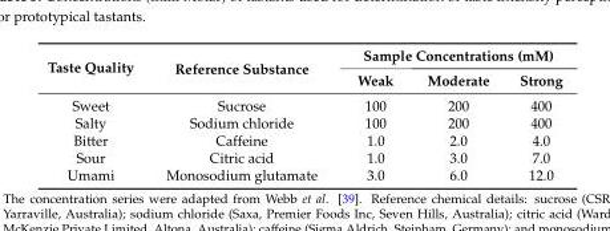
<table><thead><tr><td rowspan="2">Taste Quality</td><td rowspan="2">Reference Substance</td><td colspan="3">Sample Concentrations (mM)</td></tr><tr><td>Weak</td><td>Moderate</td><td>Strong</td></tr></thead><tbody><tr><td>Sweet</td><td>Sucrose</td><td>100</td><td>200</td><td>400</td></tr><tr><td>Salty</td><td>Sodium chloride</td><td>100</td><td>200</td><td>400</td></tr><tr><td>Bitter</td><td>Caffeine</td><td>1.0</td><td>2.0</td><td>4.0</td></tr><tr><td>Sour</td><td>Citric acid</td><td>1.0</td><td>3.0</td><td>7.0</td></tr><tr><td>Umami</td><td>Monosodium glutamate</td><td>3.0</td><td>6.0</td><td>12.0</td></tr></tbody></table>